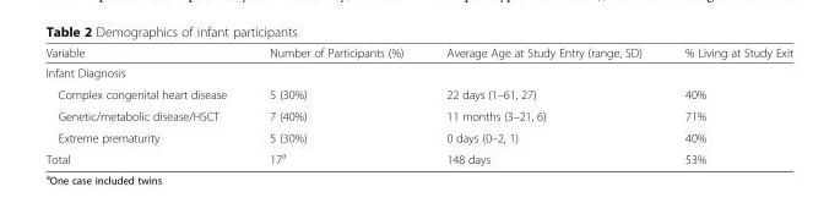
<table><thead><tr><td>Variable</td><td>Number of Participants (%)</td><td>Average Age at Study Entry (range, SD)</td><td>% Living at Study Exit</td></tr></thead><tbody><tr><td colspan="4">Infant Diagnosis</td></tr><tr><td>Complex congenital heart disease</td><td>5 (30%)</td><td>22 days (1–61, 27)</td><td>40%</td></tr><tr><td>Genetic/metabolic disease/HSCT</td><td>7 (40%)</td><td>11 months (3–21, 6)</td><td>71%</td></tr><tr><td>Extreme prematurity</td><td>5 (30%)</td><td>0 days (0–2, 1)</td><td>40%</td></tr><tr><td>Total</td><td>17<sup>a</sup></td><td>148 days</td><td>53%</td></tr></tbody></table>